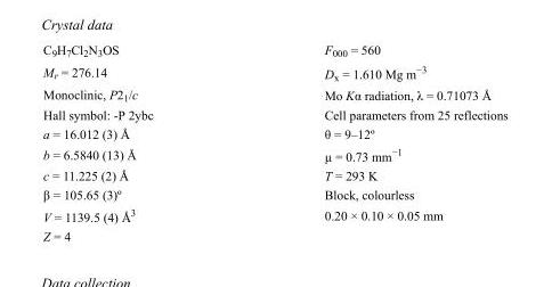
<table><tbody><tr><td>C<sub>9</sub>H<sub>7</sub>Cl<sub>2</sub>N<sub>3</sub>OS</td><td>F000 = 560</td></tr><tr><td>M<sub>r</sub> = 276.14</td><td>D<sub>x</sub> = 1.610 Mg m<sup>−3</sup></td></tr><tr><td>Monoclinic, P2<sub>1</sub>/c</td><td>Mo Kα radiation, λ = 0.71073 Å</td></tr><tr><td>Hall symbol: -P 2ybc</td><td>Cell parameters from 25 reflections</td></tr><tr><td>a = 16.012 (3) Å</td><td>θ = 9–12º</td></tr><tr><td>b = 6.5840 (13) Å</td><td>µ = 0.73 mm<sup>−1</sup></td></tr><tr><td>c = 11.225 (2) Å</td><td>T = 293 K</td></tr><tr><td>β = 105.65 (3)º</td><td>Block, colourless</td></tr><tr><td>V = 1139.5 (4) Å<sup>3</sup></td><td>0.20 × 0.10 × 0.05 mm</td></tr><tr><td>Z = 4</td><td></td></tr></tbody></table>